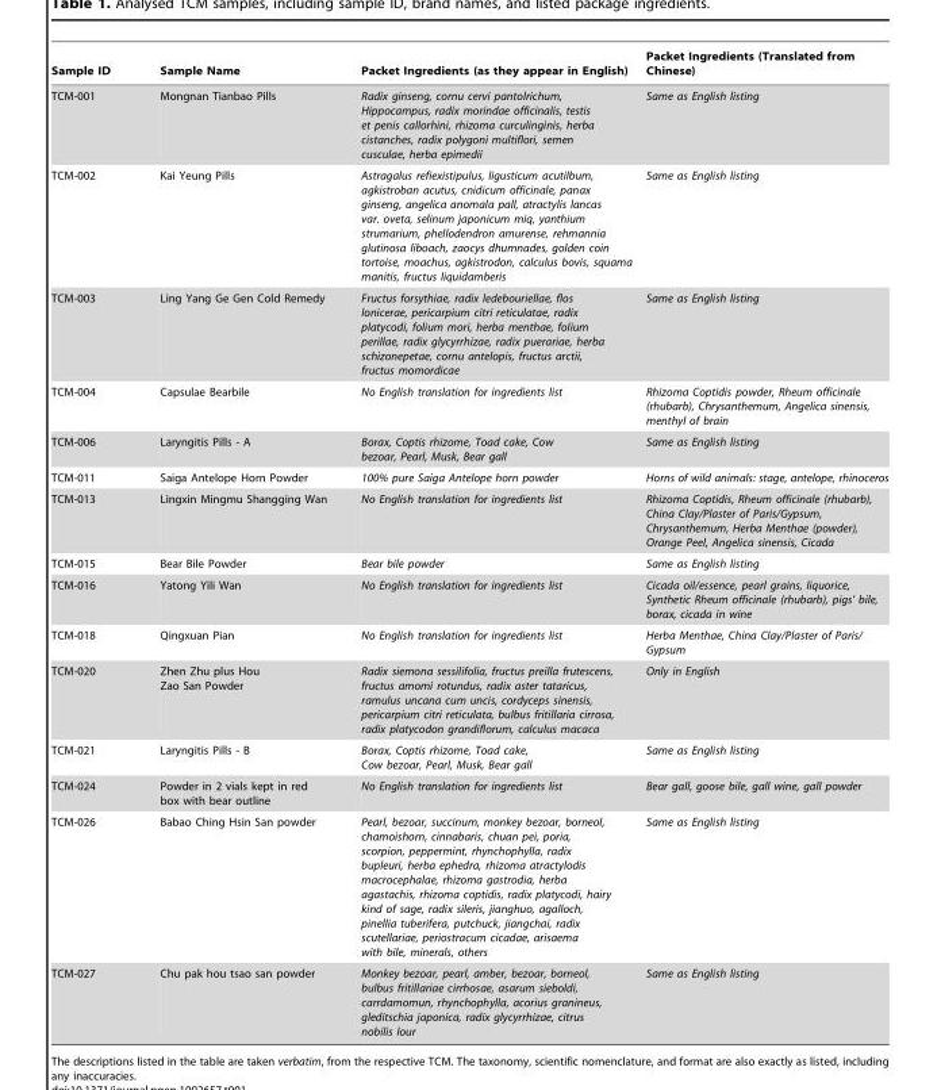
<table><thead><tr><td>Sample ID</td><td>Sample Name</td><td>Packet Ingredients (as they appear in English)</td><td>Packet Ingredients (Translated from Chinese)</td></tr></thead><tbody><tr><td>TCM-001</td><td>Mongnan Tianbao Pills</td><td>Radix ginseng, cornu cervi pantolrichum, Hippocampus, radix morindae officinalis, testis et penis callorhini, rhizoma curculinginis, herba cistanches, radix polygoni multiflori, semen cusculae, herba epimedii</td><td>Same as English listing</td></tr><tr><td>TCM-002</td><td>Kai Yeung Pills</td><td>Astragalus refiexistipulus, ligusticum acutilbum, agkistroban acutus, cnidicum officinale, panax ginseng, angelica anomala pall, atractylis lancas var. oveta, selinum japonicum miq, yanthium strumarium, phellodendron amurense, rehmannia glutinosa liboach, zaocys dhumnades, golden coin tortoise, moachus, agkistrodon, calculus bovis, squama manitis, fructus liquidamberis</td><td>Same as English listing</td></tr><tr><td>TCM-003</td><td>Ling Yang Ge Gen Cold Remedy</td><td>Fructus forsythiae, radix ledebouriellae, flos lonicerae, pericarpium citri reticulatae, radix platycodi, folium mori, herba menthae, folium perillae, radix glycyrrhizae, radix puerariae, herba schizonepetae, cornu antelopis, fructus arctii, fructus momordicae</td><td>Same as English listing</td></tr><tr><td>TCM-004</td><td>Capsulae Bearbile</td><td>No English translation for ingredients list</td><td>Rhizoma Coptidis powder, Rheum officinale (rhubarb), Chrysanthemum, Angelica sinensis, menthyl of brain</td></tr><tr><td>TCM-006</td><td>Laryngitis Pills - A</td><td>Borax, Coptis rhizome, Toad cake, Cow bezoar, Pearl, Musk, Bear gall</td><td>Same as English listing</td></tr><tr><td>TCM-011</td><td>Saiga Antelope Horn Powder</td><td>100% pure Saiga Antelope horn powder</td><td>Horns of wild animals: stage, antelope, rhinoceros</td></tr><tr><td>TCM-013</td><td>Lingxin Mingmu Shangging Wan</td><td>No English translation for ingredients list</td><td>Rhizoma Coptidis, Rheum officinale (rhubarb), China Clay/Plaster of Paris/Gypsum, Chrysanthemum, Herba Menthae (powder), Orange Peel, Angelica sinensis, Cicada</td></tr><tr><td>TCM-015</td><td>Bear Bile Powder</td><td>Bear bile powder</td><td>Same as English listing</td></tr><tr><td>TCM-016</td><td>Yatong Yili Wan</td><td>No English translation for ingredients list</td><td>Cicada oil/essence, pearl grains, liquorice, Synthetic Rheum officinale (rhubarb), pigs’ bile, borax, cicada in wine</td></tr><tr><td>TCM-018</td><td>Qingxuan Pian</td><td>No English translation for ingredients list</td><td>Herba Menthae, China Clay/Plaster of Paris/ Gypsum</td></tr><tr><td>TCM-020</td><td>Zhen Zhu plus Hou Zao San Powder</td><td>Radix siemona sessilifolia, fructus preilla frutescens, fructus amomi rotundus, radix aster tataricus, ramulus uncana cum uncis, cordyceps sinensis, pericarpium citri reticulata, bulbus fritillaria cirrosa, radix platycodon grandiflorum, calculus macaca</td><td>Only in English</td></tr><tr><td>TCM-021</td><td>Laryngitis Pills - B</td><td>Borax, Coptis rhizome, Toad cake, Cow bezoar, Pearl, Musk, Bear gall</td><td>Same as English listing</td></tr><tr><td>TCM-024</td><td>Powder in 2 vials kept in red box with bear outline</td><td>No English translation for ingredients list</td><td>Bear gall, goose bile, gall wine, gall powder</td></tr><tr><td>TCM-026</td><td>Babao Ching Hsin San powder</td><td>Pearl, bezoar, succinum, monkey bezoar, borneol, chamoishorn, cinnabaris, chuan pei, poria, scorpion, peppermint, rhynchophylla, radix bupleuri, herba ephedra, rhizoma atractylodis macrocephalae, rhizoma gastrodia, herba agastachis, rhizoma coptidis, radix platycodi, hairy kind of sage, radix sileris, jianghuo, agalloch, pinellia tuberifera, putchuck, jiangchai, radix scutellariae, periostracum cicadae, arisaema with bile, minerals, others</td><td>Same as English listing</td></tr><tr><td>TCM-027</td><td>Chu pak hou tsao san powder</td><td>Monkey bezoar, pearl, amber, bezoar, borneol, bulbus fritillariae cirrhosae, asarum sieboldi, carrdamomun, rhynchophylla, acorius granineus, gleditschia japonica, radix glycyrrhizae, citrus nobilis lour</td><td>Same as English listing</td></tr></tbody></table>